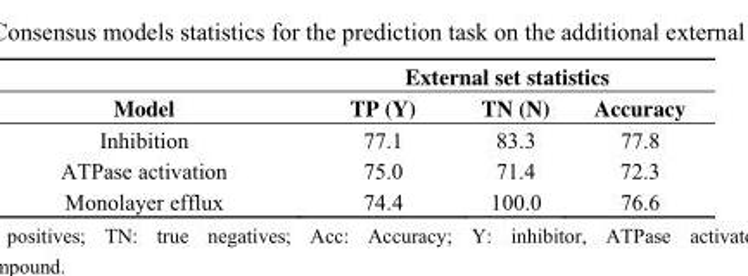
<table><thead><tr><td rowspan="2">Model</td><td colspan="3">External set statistics</td></tr><tr><td>TP (Y)</td><td>TN (N)</td><td>Accuracy</td></tr></thead><tbody><tr><td>Inhibition</td><td>77.1</td><td>83.3</td><td>77.8</td></tr><tr><td>ATPase activation</td><td>75.0</td><td>71.4</td><td>72.3</td></tr><tr><td>Monolayer efflux</td><td>74.4</td><td>100.0</td><td>76.6</td></tr></tbody></table>